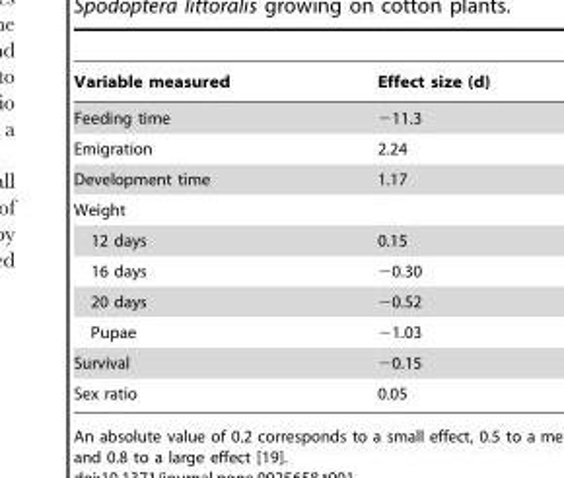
<table><thead><tr><td>Variable measured</td><td>Effect size (d)</td></tr></thead><tbody><tr><td>Feeding time</td><td>−11.3</td></tr><tr><td>Emigration</td><td>2.24</td></tr><tr><td>Development time</td><td>1.17</td></tr><tr><td colspan="2">Weight</td></tr><tr><td>12 days</td><td>0.15</td></tr><tr><td>16 days</td><td>−0.30</td></tr><tr><td>20 days</td><td>−0.52</td></tr><tr><td>Pupae</td><td>−1.03</td></tr><tr><td>Survival</td><td>−0.15</td></tr><tr><td>Sex ratio</td><td>0.05</td></tr></tbody></table>